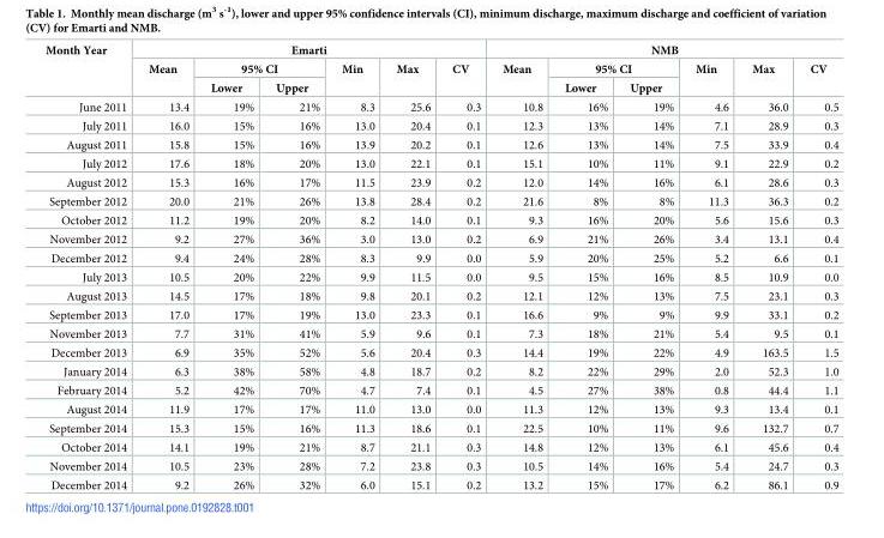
<table><thead><tr><td rowspan="3">Month Year</td><td colspan="6">Emarti</td><td colspan="6">NMB</td></tr><tr><td rowspan="2">Mean</td><td colspan="2">95% CI</td><td rowspan="2">Min</td><td rowspan="2">Max</td><td rowspan="2">CV</td><td rowspan="2">Mean</td><td colspan="2">95% CI</td><td rowspan="2">Min</td><td rowspan="2">Max</td><td rowspan="2">CV</td></tr><tr><td>Lower</td><td>Upper</td><td>Lower</td><td>Upper</td></tr></thead><tbody><tr><td>June 2011</td><td>13.4</td><td>19%</td><td>21%</td><td>8.3</td><td>25.6</td><td>0.3</td><td>10.8</td><td>16%</td><td>19%</td><td>4.6</td><td>36.0</td><td>0.5</td></tr><tr><td>July 2011</td><td>16.0</td><td>15%</td><td>16%</td><td>13.0</td><td>20.4</td><td>0.1</td><td>12.3</td><td>13%</td><td>14%</td><td>7.1</td><td>28.9</td><td>0.3</td></tr><tr><td>August 2011</td><td>15.8</td><td>15%</td><td>16%</td><td>13.9</td><td>20.2</td><td>0.1</td><td>12.6</td><td>13%</td><td>14%</td><td>7.5</td><td>33.9</td><td>0.4</td></tr><tr><td>July 2012</td><td>17.6</td><td>18%</td><td>20%</td><td>13.0</td><td>22.1</td><td>0.1</td><td>15.1</td><td>10%</td><td>11%</td><td>9.1</td><td>22.9</td><td>0.2</td></tr><tr><td>August 2012</td><td>15.3</td><td>16%</td><td>17%</td><td>11.5</td><td>23.9</td><td>0.2</td><td>12.0</td><td>14%</td><td>16%</td><td>6.1</td><td>28.6</td><td>0.3</td></tr><tr><td>September 2012</td><td>20.0</td><td>21%</td><td>26%</td><td>13.8</td><td>28.4</td><td>0.2</td><td>21.6</td><td>8%</td><td>8%</td><td>11.3</td><td>36.3</td><td>0.2</td></tr><tr><td>October 2012</td><td>11.2</td><td>19%</td><td>20%</td><td>8.2</td><td>14.0</td><td>0.1</td><td>9.3</td><td>16%</td><td>20%</td><td>5.6</td><td>15.6</td><td>0.3</td></tr><tr><td>November 2012</td><td>9.2</td><td>27%</td><td>36%</td><td>3.0</td><td>13.0</td><td>0.2</td><td>6.9</td><td>21%</td><td>26%</td><td>3.4</td><td>13.1</td><td>0.4</td></tr><tr><td>December 2012</td><td>9.4</td><td>24%</td><td>28%</td><td>8.3</td><td>9.9</td><td>0.0</td><td>5.9</td><td>20%</td><td>25%</td><td>5.2</td><td>6.6</td><td>0.1</td></tr><tr><td>July 2013</td><td>10.5</td><td>20%</td><td>22%</td><td>9.9</td><td>11.5</td><td>0.0</td><td>9.5</td><td>15%</td><td>16%</td><td>8.5</td><td>10.9</td><td>0.0</td></tr><tr><td>August 2013</td><td>14.5</td><td>17%</td><td>18%</td><td>9.8</td><td>20.1</td><td>0.2</td><td>12.1</td><td>12%</td><td>13%</td><td>7.5</td><td>23.1</td><td>0.3</td></tr><tr><td>September 2013</td><td>17.0</td><td>17%</td><td>19%</td><td>13.0</td><td>23.3</td><td>0.1</td><td>16.6</td><td>9%</td><td>9%</td><td>9.9</td><td>33.1</td><td>0.2</td></tr><tr><td>November 2013</td><td>7.7</td><td>31%</td><td>41%</td><td>5.9</td><td>9.6</td><td>0.1</td><td>7.3</td><td>18%</td><td>21%</td><td>5.4</td><td>9.5</td><td>0.1</td></tr><tr><td>December 2013</td><td>6.9</td><td>35%</td><td>52%</td><td>5.6</td><td>20.4</td><td>0.3</td><td>14.4</td><td>19%</td><td>22%</td><td>4.9</td><td>163.5</td><td>1.5</td></tr><tr><td>January 2014</td><td>6.3</td><td>38%</td><td>58%</td><td>4.8</td><td>18.7</td><td>0.2</td><td>8.2</td><td>22%</td><td>29%</td><td>2.0</td><td>52.3</td><td>1.0</td></tr><tr><td>February 2014</td><td>5.2</td><td>42%</td><td>70%</td><td>4.7</td><td>7.4</td><td>0.1</td><td>4.5</td><td>27%</td><td>38%</td><td>0.8</td><td>44.4</td><td>1.1</td></tr><tr><td>August 2014</td><td>11.9</td><td>17%</td><td>17%</td><td>11.0</td><td>13.0</td><td>0.0</td><td>11.3</td><td>12%</td><td>13%</td><td>9.3</td><td>13.4</td><td>0.1</td></tr><tr><td>September 2014</td><td>15.3</td><td>15%</td><td>16%</td><td>11.3</td><td>18.6</td><td>0.1</td><td>22.5</td><td>10%</td><td>11%</td><td>9.6</td><td>132.7</td><td>0.7</td></tr><tr><td>October 2014</td><td>14.1</td><td>19%</td><td>21%</td><td>8.7</td><td>21.1</td><td>0.3</td><td>14.8</td><td>12%</td><td>13%</td><td>6.1</td><td>45.6</td><td>0.4</td></tr><tr><td>November 2014</td><td>10.5</td><td>23%</td><td>28%</td><td>7.2</td><td>23.8</td><td>0.3</td><td>10.5</td><td>14%</td><td>16%</td><td>5.4</td><td>24.7</td><td>0.3</td></tr><tr><td>December 2014</td><td>9.2</td><td>26%</td><td>32%</td><td>6.0</td><td>15.1</td><td>0.2</td><td>13.2</td><td>15%</td><td>17%</td><td>6.2</td><td>86.1</td><td>0.9</td></tr></tbody></table>